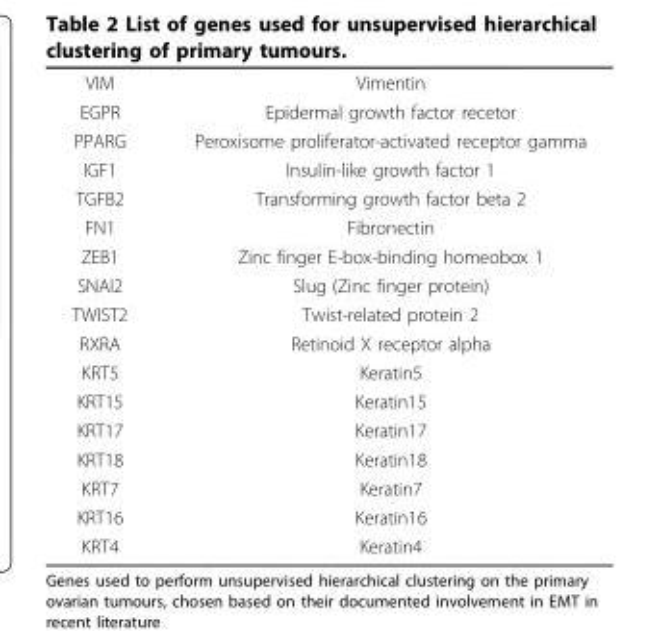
<table><tbody><tr><td>VIM</td><td>Vimentin</td></tr><tr><td>EGPR</td><td>Epidermal growth factor recetor</td></tr><tr><td>PPARG</td><td>Peroxisome proliferator-activated receptor gamma</td></tr><tr><td>IGF1</td><td>Insulin-like growth factor 1</td></tr><tr><td>TGFB2</td><td>Transforming growth factor beta 2</td></tr><tr><td>FN1</td><td>Fibronectin</td></tr><tr><td>ZEB1</td><td>Zinc finger E-box-binding homeobox 1</td></tr><tr><td>SNAI2</td><td>Slug (Zinc finger protein)</td></tr><tr><td>TWIST2</td><td>Twist-related protein 2</td></tr><tr><td>RXRA</td><td>Retinoid X receptor alpha</td></tr><tr><td>KRT5</td><td>Keratin5</td></tr><tr><td>KRT15</td><td>Keratin15</td></tr><tr><td>KRT17</td><td>Keratin17</td></tr><tr><td>KRT18</td><td>Keratin18</td></tr><tr><td>KRT7</td><td>Keratin7</td></tr><tr><td>KRT16</td><td>Keratin16</td></tr><tr><td>KRT4</td><td>Keratin4</td></tr></tbody></table>